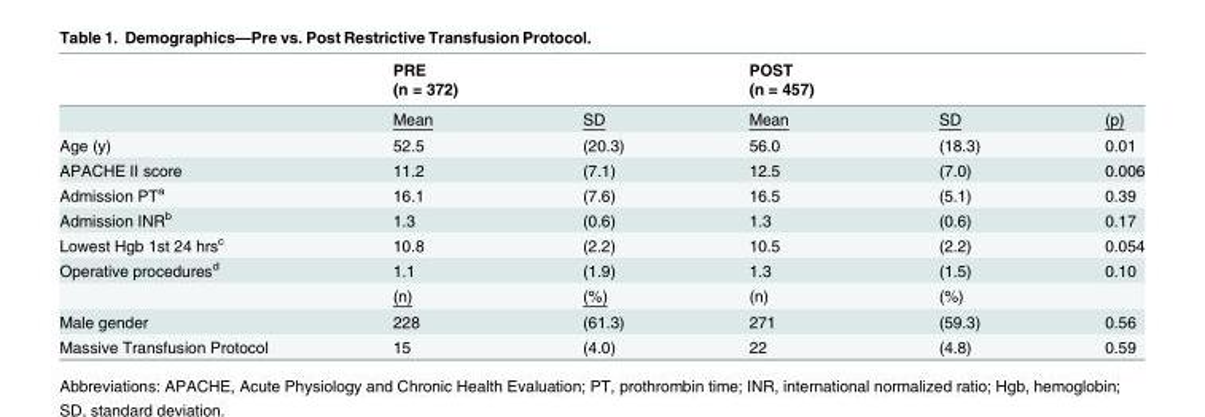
<table><thead><tr><td rowspan="2"></td><td rowspan="2">PRE (n = 372)</td><td rowspan="2"></td><td rowspan="2">POST (n = 457)</td><td rowspan="2"></td><td rowspan="2"></td></tr><tr></tr></thead><tbody><tr><td></td><td>Mean</td><td>SD</td><td>Mean</td><td>SD</td><td>(p)</td></tr><tr><td>Age (y)</td><td>52.5</td><td>(20.3)</td><td>56.0</td><td>(18.3)</td><td>0.01</td></tr><tr><td>APACHE II score</td><td>11.2</td><td>(7.1)</td><td>12.5</td><td>(7.0)</td><td>0.006</td></tr><tr><td>Admission PT<sup>a</sup></td><td>16.1</td><td>(7.6)</td><td>16.5</td><td>(5.1)</td><td>0.39</td></tr><tr><td>Admission INR<sup>b</sup></td><td>1.3</td><td>(0.6)</td><td>1.3</td><td>(0.6)</td><td>0.17</td></tr><tr><td>Lowest Hgb 1st 24 hrs<sup>c</sup></td><td>10.8</td><td>(2.2)</td><td>10.5</td><td>(2.2)</td><td>0.054</td></tr><tr><td rowspan="2">Operative procedures<sup>d</sup></td><td>1.1</td><td>(1.9)</td><td>1.3</td><td>(1.5)</td><td>0.10</td></tr><tr><td>(n)</td><td>(%)</td><td>(n)</td><td>(%)</td><td></td></tr><tr><td>Male gender</td><td>228</td><td>(61.3)</td><td>271</td><td>(59.3)</td><td>0.56</td></tr><tr><td>Massive Transfusion Protocol</td><td>15</td><td>(4.0)</td><td>22</td><td>(4.8)</td><td>0.59</td></tr></tbody></table>